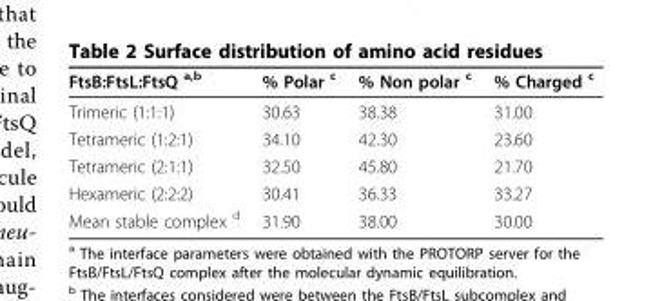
<table><thead><tr><td>FtsB:FtsL:FtsQ <sup>a,b</sup></td><td>% Polar <sup>c</sup></td><td>% Non polar <sup>c</sup></td><td>% Charged <sup>c</sup></td></tr></thead><tbody><tr><td>Trimeric (1:1:1)</td><td>30.63</td><td>38.38</td><td>31.00</td></tr><tr><td>Tetrameric (1:2:1)</td><td>34.10</td><td>42.30</td><td>23.60</td></tr><tr><td>Tetrameric (2:1:1)</td><td>32.50</td><td>45.80</td><td>21.70</td></tr><tr><td>Hexameric (2:2:2)</td><td>30.41</td><td>36.33</td><td>33.27</td></tr><tr><td>Mean stable complex <sup>d</sup></td><td>31.90</td><td>38.00</td><td>30.00</td></tr></tbody></table>